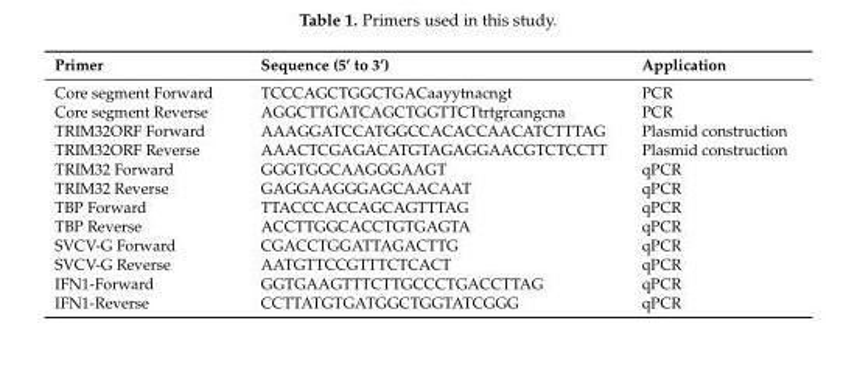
<table><thead><tr><td>Primer</td><td>Sequence (5’ to 3’)</td><td>Application</td></tr></thead><tbody><tr><td>Core segment Forward</td><td>TCCCAGCTGGCTGACaayytnacngt</td><td>PCR</td></tr><tr><td>Core segment Reverse</td><td>AGGCTTGATCAGCTGGTTCTtrtgrcangcna</td><td>PCR</td></tr><tr><td>TRIM32ORF Forward</td><td>AAAGGATCCATGGCCACACCAACATCTTTAG</td><td>Plasmid construction</td></tr><tr><td>TRIM32ORF Reverse</td><td>AAACTCGAGACATGTAGAGGAACGTCTCCTT</td><td>Plasmid construction</td></tr><tr><td>TRIM32 Forward</td><td>GGGTGGCAAGGGAAGT</td><td>qPCR</td></tr><tr><td>TRIM32 Reverse</td><td>GAGGAAGGGAGCAACAAT</td><td>qPCR</td></tr><tr><td>TBP Forward</td><td>TTACCCACCAGCAGTTTAG</td><td>qPCR</td></tr><tr><td>TBP Reverse</td><td>ACCTTGGCACCTGTGAGTA</td><td>qPCR</td></tr><tr><td>SVCV-G Forward</td><td>CGACCTGGATTAGACTTG</td><td>qPCR</td></tr><tr><td>SVCV-G Reverse</td><td>AATGTTCCGTTTCTCACT</td><td>qPCR</td></tr><tr><td>IFN1-Forward</td><td>GGTGAAGTTTCTTGCCCTGACCTTAG</td><td>qPCR</td></tr><tr><td>IFN1-Reverse</td><td>CCTTATGTGATGGCTGGTATCGGG</td><td>qPCR</td></tr></tbody></table>